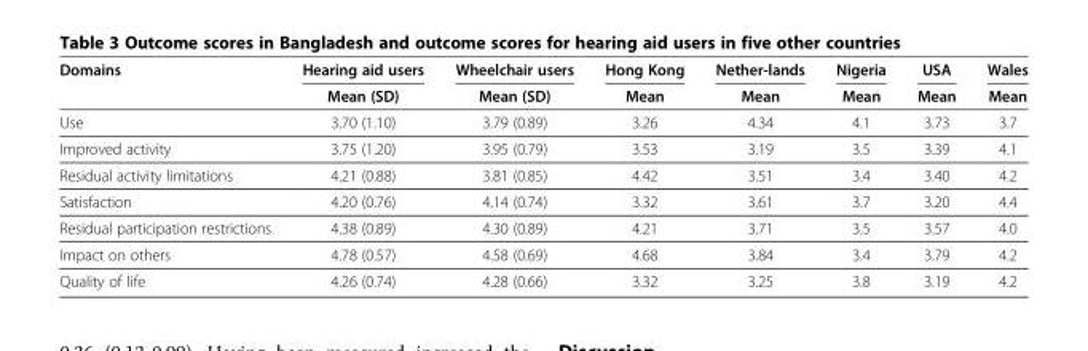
<table><thead><tr><td rowspan="2">Domains</td><td rowspan="2">Hearing aid users Mean (SD)</td><td rowspan="2">Wheelchair users Mean (SD)</td><td rowspan="2">Hong Kong Mean</td><td rowspan="2">Nether-lands Mean</td><td rowspan="2">Nigeria Mean</td><td rowspan="2">USA Mean</td><td rowspan="2">Wales Mean</td></tr><tr></tr></thead><tbody><tr><td>Use</td><td>3.70 (1.10)</td><td>3.79 (0.89)</td><td>3.26</td><td>4.34</td><td>4.1</td><td>3.73</td><td>3.7</td></tr><tr><td>Improved activity</td><td>3.75 (1.20)</td><td>3.95 (0.79)</td><td>3.53</td><td>3.19</td><td>3.5</td><td>3.39</td><td>4.1</td></tr><tr><td>Residual activity limitations</td><td>4.21 (0.88)</td><td>3.81 (0.85)</td><td>4.42</td><td>3.51</td><td>3.4</td><td>3.40</td><td>4.2</td></tr><tr><td>Satisfaction</td><td>4.20 (0.76)</td><td>4.14 (0.74)</td><td>3.32</td><td>3.61</td><td>3.7</td><td>3.20</td><td>4.4</td></tr><tr><td>Residual participation restrictions</td><td>4.38 (0.89)</td><td>4.30 (0.89)</td><td>4.21</td><td>3.71</td><td>3.5</td><td>3.57</td><td>4.0</td></tr><tr><td>Impact on others</td><td>4.78 (0.57)</td><td>4.58 (0.69)</td><td>4.68</td><td>3.84</td><td>3.4</td><td>3.79</td><td>4.2</td></tr><tr><td>Quality of life</td><td>4.26 (0.74)</td><td>4.28 (0.66)</td><td>3.32</td><td>3.25</td><td>3.8</td><td>3.19</td><td>4.2</td></tr></tbody></table>